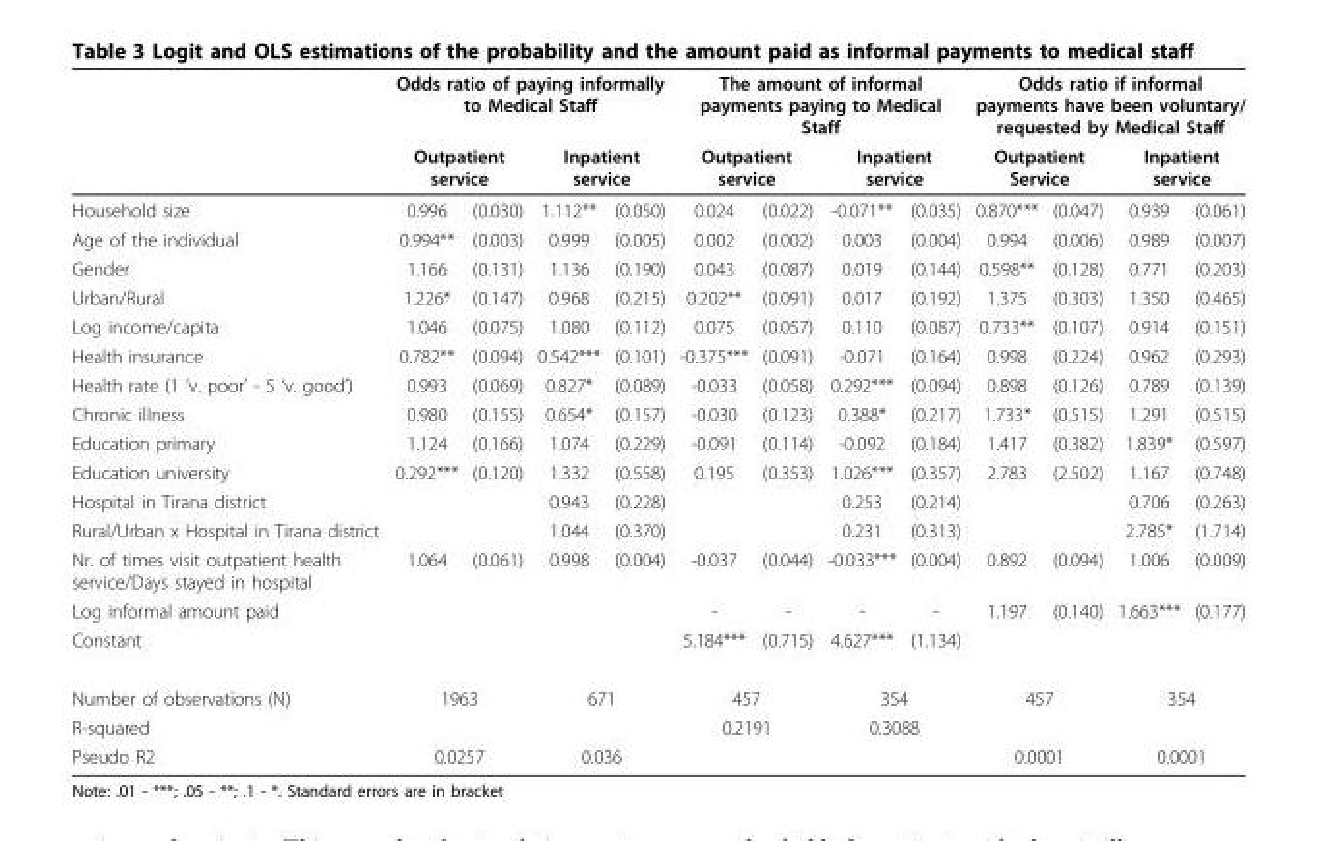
<table><thead><tr><td rowspan="3">Household size</td><td colspan="4">Odds ratio of paying informally to Medical Staff</td><td colspan="4">The amount of informal payments paying to Medical Staff</td><td colspan="4">Odds ratio if informal payments have been voluntary/ requested by Medical Staff</td></tr><tr><td colspan="2">Outpatient service</td><td colspan="2">Inpatient service</td><td colspan="2">Outpatient service</td><td colspan="2">Inpatient service</td><td colspan="2">Outpatient Service</td><td colspan="2">Inpatient service</td></tr><tr><td>0.996</td><td>(0.030)</td><td>1.112**</td><td>(0.050)</td><td>0.024</td><td>(0.022)</td><td>-0.071**</td><td>(0.035)</td><td>0.870***</td><td>(0.047)</td><td>0.939</td><td>(0.061)</td></tr></thead><tbody><tr><td>Age of the individual</td><td>0.994**</td><td>(0.003)</td><td>0.999</td><td>(0.005)</td><td>0.002</td><td>(0.002)</td><td>0.003</td><td>(0.004)</td><td>0.994</td><td>(0.006)</td><td>0.989</td><td>(0.007)</td></tr><tr><td>Gender</td><td>1.166</td><td>(0.131)</td><td>1.136</td><td>(0.190)</td><td>0.043</td><td>(0.087)</td><td>0.019</td><td>(0.144)</td><td>0.598**</td><td>(0.128)</td><td>0.771</td><td>(0.203)</td></tr><tr><td>Urban/Rural</td><td>1.226*</td><td>(0.147)</td><td>0.968</td><td>(0.215)</td><td>0.202**</td><td>(0.091)</td><td>0.017</td><td>(0.192)</td><td>1.375</td><td>(0.303)</td><td>1.350</td><td>(0.465)</td></tr><tr><td>Log income/capita</td><td>1.046</td><td>(0.075)</td><td>1.080</td><td>(0.112)</td><td>0.075</td><td>(0.057)</td><td>0.110</td><td>(0.087)</td><td>0.733**</td><td>(0.107)</td><td>0.914</td><td>(0.151)</td></tr><tr><td>Health insurance</td><td>0.782**</td><td>(0.094)</td><td>0.542***</td><td>(0.101)</td><td>-0.375***</td><td>(0.091)</td><td>-0.071</td><td>(0.164)</td><td>0.998</td><td>(0.224)</td><td>0.962</td><td>(0.293)</td></tr><tr><td>Health rate (1 ‘v. poor’ - 5 ‘v. good’)</td><td>0.993</td><td>(0.069)</td><td>0.827*</td><td>(0.089)</td><td>-0.033</td><td>(0.058)</td><td>0.292***</td><td>(0.094)</td><td>0.898</td><td>(0.126)</td><td>0.789</td><td>(0.139)</td></tr><tr><td>Chronic illness</td><td>0.980</td><td>(0.155)</td><td>0.654*</td><td>(0.157)</td><td>-0.030</td><td>(0.123)</td><td>0.388*</td><td>(0.217)</td><td>1.733*</td><td>(0.515)</td><td>1.291</td><td>(0.515)</td></tr><tr><td>Education primary</td><td>1.124</td><td>(0.166)</td><td>1.074</td><td>(0.229)</td><td>-0.091</td><td>(0.114)</td><td>-0.092</td><td>(0.184)</td><td>1.417</td><td>(0.382)</td><td>1.839*</td><td>(0.597)</td></tr><tr><td>Education university</td><td>0.292***</td><td>(0.120)</td><td>1.332</td><td>(0.558)</td><td>0.195</td><td>(0.353)</td><td>1.026***</td><td>(0.357)</td><td>2.783</td><td>(2.502)</td><td>1.167</td><td>(0.748)</td></tr><tr><td>Hospital in Tirana district</td><td></td><td></td><td>0.943</td><td>(0.228)</td><td></td><td></td><td>0.253</td><td>(0.214)</td><td></td><td></td><td>0.706</td><td>(0.263)</td></tr><tr><td>Rural/Urban x Hospital in Tirana district</td><td></td><td></td><td>1.044</td><td>(0.370)</td><td></td><td></td><td>0.231</td><td>(0.313)</td><td></td><td></td><td>2.785*</td><td>(1.714)</td></tr><tr><td>Nr. of times visit outpatient health service/Days stayed in hospital</td><td>1.064</td><td>(0.061)</td><td>0.998</td><td>(0.004)</td><td>-0.037</td><td>(0.044)</td><td>-0.033***</td><td>(0.004)</td><td>0.892</td><td>(0.094)</td><td>1.006</td><td>(0.009)</td></tr><tr><td>Log informal amount paid</td><td></td><td></td><td></td><td></td><td>-</td><td>-</td><td>-</td><td>-</td><td>1.197</td><td>(0.140)</td><td>1.663***</td><td>(0.177)</td></tr><tr><td>Constant</td><td></td><td></td><td></td><td></td><td>5.184***</td><td>(0.715)</td><td>4.627***</td><td>(1.134)</td><td></td><td></td><td></td><td></td></tr><tr><td>Number of observations (N)</td><td colspan="2">1963</td><td colspan="2">671</td><td colspan="2">457</td><td colspan="2">354</td><td colspan="2">457</td><td colspan="2">354</td></tr><tr><td>R-squared</td><td></td><td></td><td></td><td></td><td colspan="2">0.2191</td><td colspan="2">0.3088</td><td></td><td></td><td></td><td></td></tr><tr><td>Pseudo R2</td><td colspan="2">0.0257</td><td colspan="2">0.036</td><td></td><td></td><td></td><td></td><td colspan="2">0.0001</td><td colspan="2">0.0001</td></tr></tbody></table>